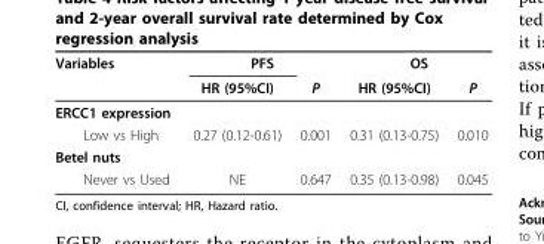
<table><thead><tr><td rowspan="2">Variables</td><td colspan="2">PFS</td><td colspan="2">OS</td></tr><tr><td>HR (95%CI)</td><td>P</td><td>HR (95%CI)</td><td>P</td></tr></thead><tbody><tr><td colspan="5">ERCC1 expression</td></tr><tr><td>Low vs High</td><td>0.27 (0.12-0.61)</td><td>0.001</td><td>0.31 (0.13-0.75)</td><td>0.010</td></tr><tr><td colspan="5">Betel nuts</td></tr><tr><td>Never vs Used</td><td>NE</td><td>0.647</td><td>0.35 (0.13-0.98)</td><td>0.045</td></tr></tbody></table>